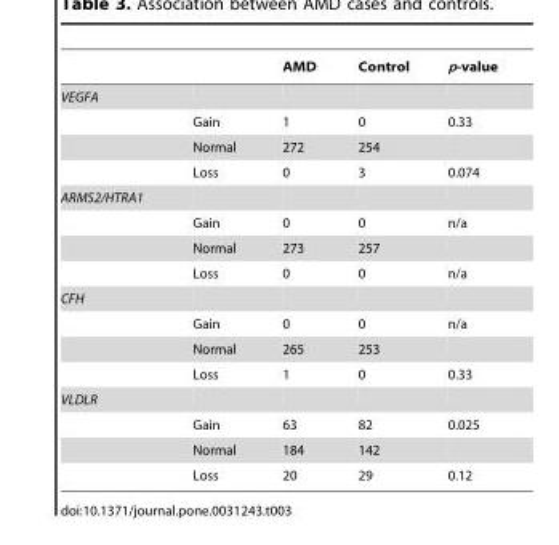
<table><thead><tr><td></td><td></td><td>AMD</td><td>Control</td><td>p-value</td></tr></thead><tbody><tr><td colspan="5">VEGFA</td></tr><tr><td></td><td>Gain</td><td>1</td><td>0</td><td>0.33</td></tr><tr><td></td><td>Normal</td><td>272</td><td>254</td><td></td></tr><tr><td></td><td>Loss</td><td>0</td><td>3</td><td>0.074</td></tr><tr><td colspan="5">ARMS2/HTRA1</td></tr><tr><td></td><td>Gain</td><td>0</td><td>0</td><td>n/a</td></tr><tr><td></td><td>Normal</td><td>273</td><td>257</td><td></td></tr><tr><td></td><td>Loss</td><td>0</td><td>0</td><td>n/a</td></tr><tr><td colspan="5">CFH</td></tr><tr><td></td><td>Gain</td><td>0</td><td>0</td><td>n/a</td></tr><tr><td></td><td>Normal</td><td>265</td><td>253</td><td></td></tr><tr><td></td><td>Loss</td><td>1</td><td>0</td><td>0.33</td></tr><tr><td colspan="5">VLDLR</td></tr><tr><td></td><td>Gain</td><td>63</td><td>82</td><td>0.025</td></tr><tr><td></td><td>Normal</td><td>184</td><td>142</td><td></td></tr><tr><td></td><td>Loss</td><td>20</td><td>29</td><td>0.12</td></tr></tbody></table>